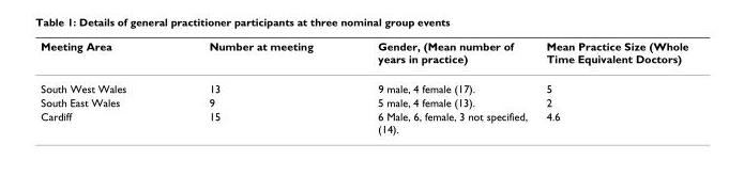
<table><thead><tr><td>Meeting Area</td><td>Number at meeting</td><td>Gender, (Mean number of years in practice)</td><td>Mean Practice Size (Whole Time Equivalent Doctors)</td></tr></thead><tbody><tr><td>South West Wales</td><td>13</td><td>9 male, 4 female (17).</td><td>5</td></tr><tr><td>South East Wales</td><td>9</td><td>5 male, 4 female (13).</td><td>2</td></tr><tr><td>Cardiff</td><td>15</td><td>6 Male, 6, female, 3 not specified, (14).</td><td>4.6</td></tr></tbody></table>